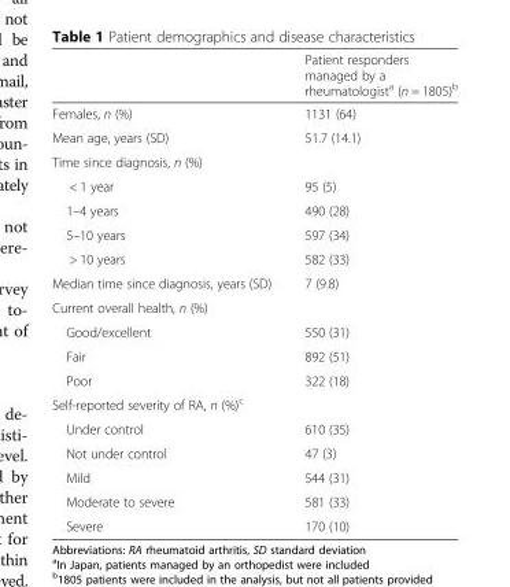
<table><thead><tr><td></td><td>Patient responders managed by a rheumatologist<sup>a</sup> (n = 1805)<sup>b</sup></td></tr></thead><tbody><tr><td>Females, n (%)</td><td>1131 (64)</td></tr><tr><td>Mean age, years (SD)</td><td>51.7 (14.1)</td></tr><tr><td colspan="2">Time since diagnosis, n (%)</td></tr><tr><td>&lt; 1 year</td><td>95 (5)</td></tr><tr><td>1–4 years</td><td>490 (28)</td></tr><tr><td>5–10 years</td><td>597 (34)</td></tr><tr><td>&gt; 10 years</td><td>582 (33)</td></tr><tr><td>Median time since diagnosis, years (SD)</td><td>7 (9.8)</td></tr><tr><td colspan="2">Current overall health, n (%)</td></tr><tr><td>Good/excellent</td><td>550 (31)</td></tr><tr><td>Fair</td><td>892 (51)</td></tr><tr><td>Poor</td><td>322 (18)</td></tr><tr><td colspan="2">Self-reported severity of RA, n (%)<sup>c</sup></td></tr><tr><td>Under control</td><td>610 (35)</td></tr><tr><td>Not under control</td><td>47 (3)</td></tr><tr><td>Mild</td><td>544 (31)</td></tr><tr><td>Moderate to severe</td><td>581 (33)</td></tr><tr><td>Severe</td><td>170 (10)</td></tr></tbody></table>